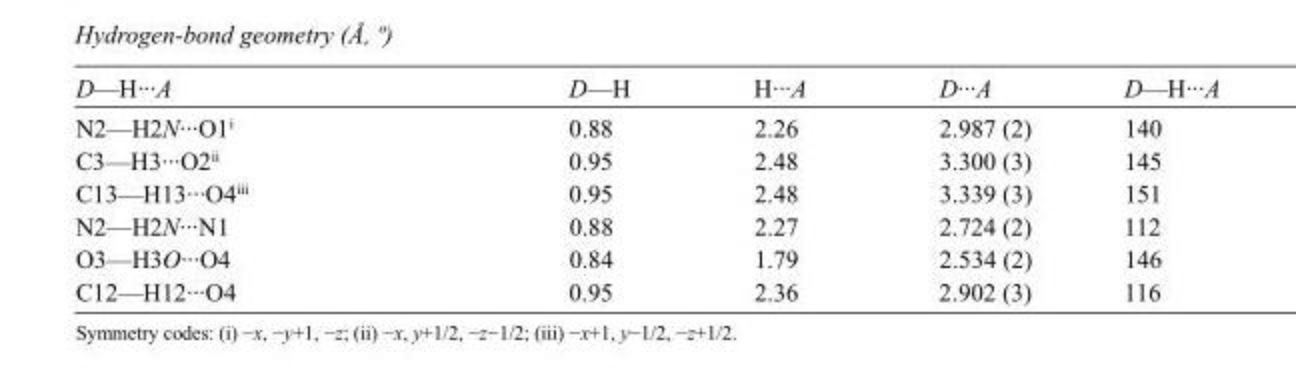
<table><tbody><tr><td>D—H···A</td><td>D—H</td><td>H···A</td><td>D···A</td><td>D—H···A</td></tr><tr><td>N2—H2N···O1<sup>i</sup></td><td>0.88</td><td>2.26</td><td>2.987 (2)</td><td>140</td></tr><tr><td>C3—H3···O2<sup>ii</sup></td><td>0.95</td><td>2.48</td><td>3.300 (3)</td><td>145</td></tr><tr><td>C13—H13···O4<sup>iii</sup></td><td>0.95</td><td>2.48</td><td>3.339 (3)</td><td>151</td></tr><tr><td>N2—H2N···N1</td><td>0.88</td><td>2.27</td><td>2.724 (2)</td><td>112</td></tr><tr><td>O3—H3O···O4</td><td>0.84</td><td>1.79</td><td>2.534 (2)</td><td>146</td></tr><tr><td>C12—H12···O4</td><td>0.95</td><td>2.36</td><td>2.902 (3)</td><td>116</td></tr></tbody></table>